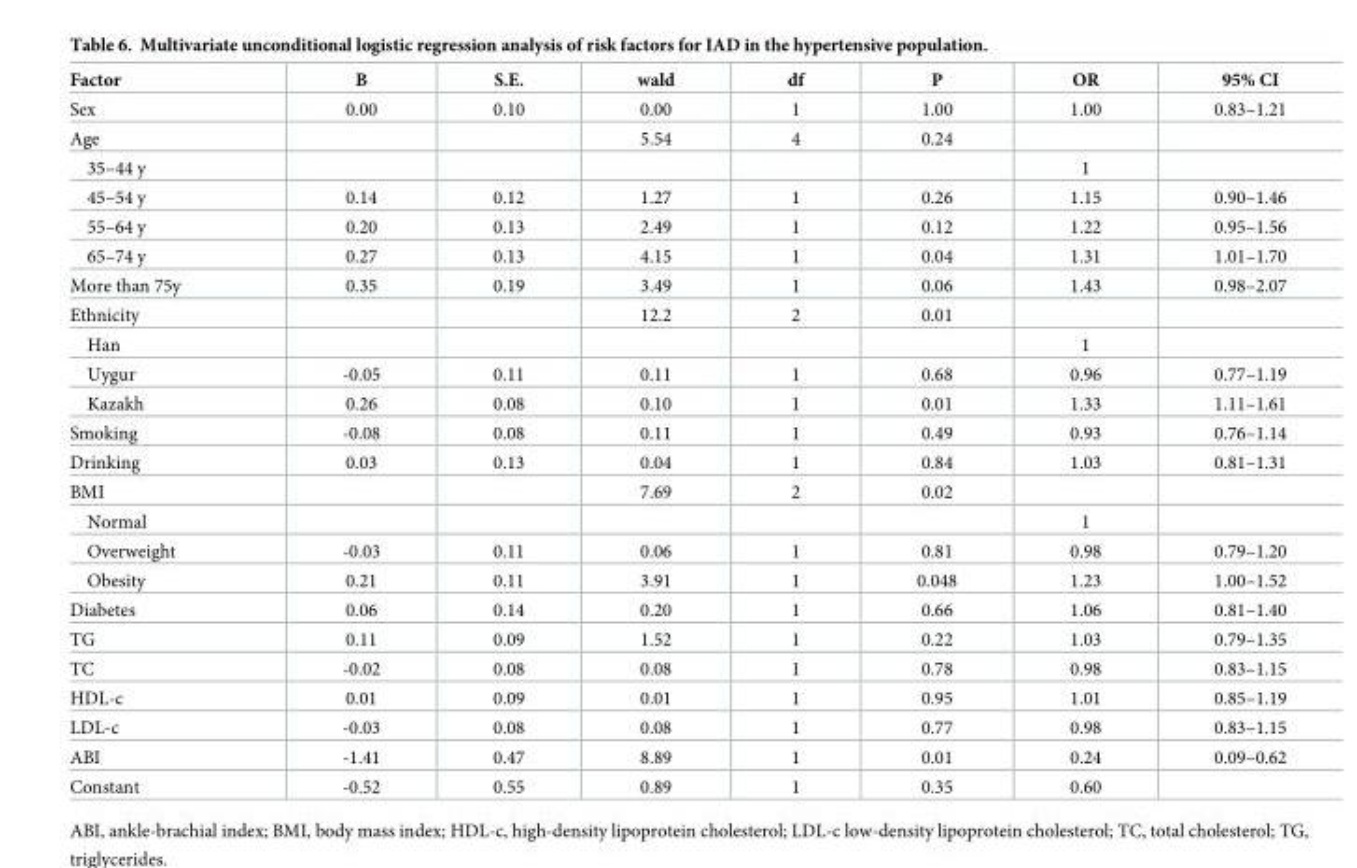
<table><thead><tr><td>Factor</td><td>B</td><td>S.E.</td><td>wald</td><td>df</td><td>P</td><td>OR</td><td>95% CI</td></tr></thead><tbody><tr><td>Sex</td><td>0.00</td><td>0.10</td><td>0.00</td><td>1</td><td>1.00</td><td>1.00</td><td>0.83–1.21</td></tr><tr><td>Age</td><td></td><td></td><td>5.54</td><td>4</td><td>0.24</td><td></td><td></td></tr><tr><td>35–44 y</td><td></td><td></td><td></td><td></td><td></td><td>1</td><td></td></tr><tr><td>45–54 y</td><td>0.14</td><td>0.12</td><td>1.27</td><td>1</td><td>0.26</td><td>1.15</td><td>0.90–1.46</td></tr><tr><td>55–64 y</td><td>0.20</td><td>0.13</td><td>2.49</td><td>1</td><td>0.12</td><td>1.22</td><td>0.95–1.56</td></tr><tr><td>65–74 y</td><td>0.27</td><td>0.13</td><td>4.15</td><td>1</td><td>0.04</td><td>1.31</td><td>1.01–1.70</td></tr><tr><td>More than 75y</td><td>0.35</td><td>0.19</td><td>3.49</td><td>1</td><td>0.06</td><td>1.43</td><td>0.98–2.07</td></tr><tr><td>Ethnicity</td><td></td><td></td><td>12.2</td><td>2</td><td>0.01</td><td></td><td></td></tr><tr><td>Han</td><td></td><td></td><td></td><td></td><td></td><td>1</td><td></td></tr><tr><td>Uygur</td><td>-0.05</td><td>0.11</td><td>0.11</td><td>1</td><td>0.68</td><td>0.96</td><td>0.77–1.19</td></tr><tr><td>Kazakh</td><td>0.26</td><td>0.08</td><td>0.10</td><td>1</td><td>0.01</td><td>1.33</td><td>1.11–1.61</td></tr><tr><td>Smoking</td><td>-0.08</td><td>0.08</td><td>0.11</td><td>1</td><td>0.49</td><td>0.93</td><td>0.76–1.14</td></tr><tr><td>Drinking</td><td>0.03</td><td>0.13</td><td>0.04</td><td>1</td><td>0.84</td><td>1.03</td><td>0.81–1.31</td></tr><tr><td>BMI</td><td></td><td></td><td>7.69</td><td>2</td><td>0.02</td><td></td><td></td></tr><tr><td>Normal</td><td></td><td></td><td></td><td></td><td></td><td>1</td><td></td></tr><tr><td>Overweight</td><td>-0.03</td><td>0.11</td><td>0.06</td><td>1</td><td>0.81</td><td>0.98</td><td>0.79–1.20</td></tr><tr><td>Obesity</td><td>0.21</td><td>0.11</td><td>3.91</td><td>1</td><td>0.048</td><td>1.23</td><td>1.00–1.52</td></tr><tr><td>Diabetes</td><td>0.06</td><td>0.14</td><td>0.20</td><td>1</td><td>0.66</td><td>1.06</td><td>0.81–1.40</td></tr><tr><td>TG</td><td>0.11</td><td>0.09</td><td>1.52</td><td>1</td><td>0.22</td><td>1.03</td><td>0.79–1.35</td></tr><tr><td>TC</td><td>-0.02</td><td>0.08</td><td>0.08</td><td>1</td><td>0.78</td><td>0.98</td><td>0.83–1.15</td></tr><tr><td>HDL-c</td><td>0.01</td><td>0.09</td><td>0.01</td><td>1</td><td>0.95</td><td>1.01</td><td>0.85–1.19</td></tr><tr><td>LDL-c</td><td>-0.03</td><td>0.08</td><td>0.08</td><td>1</td><td>0.77</td><td>0.98</td><td>0.83–1.15</td></tr><tr><td>ABI</td><td>-1.41</td><td>0.47</td><td>8.89</td><td>1</td><td>0.01</td><td>0.24</td><td>0.09–0.62</td></tr><tr><td>Constant</td><td>-0.52</td><td>0.55</td><td>0.89</td><td>1</td><td>0.35</td><td>0.60</td><td></td></tr></tbody></table>